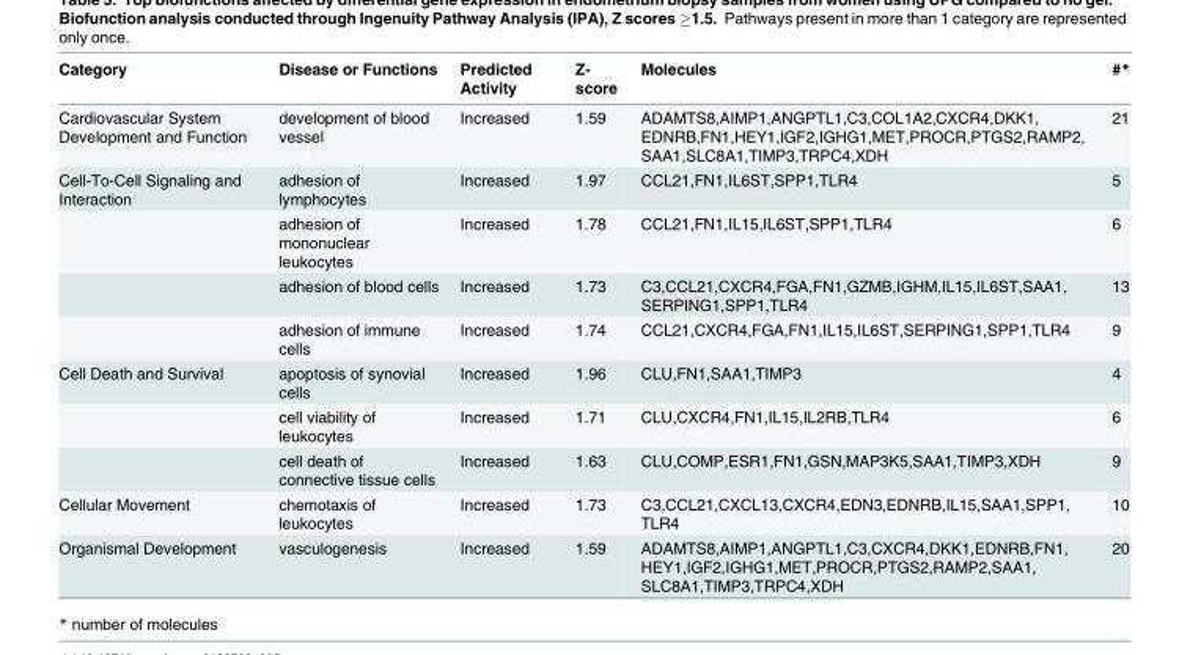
<table><thead><tr><td>Category</td><td>Disease or Functions</td><td>Predicted Activity</td><td>Z- score</td><td>Molecules</td><td>#*</td></tr></thead><tbody><tr><td>Cardiovascular System Development and Function</td><td>development of blood vessel</td><td>Increased</td><td>1.59</td><td>ADAMTS8,AIMP1,ANGPTL1,C3,COL1A2,CXCR4,DKK1, EDNRB,FN1,HEY1,IGF2,IGHG1,MET,PROCR,PTGS2,RAMP2, SAA1,SLC8A1,TIMP3,TRPC4,XDH</td><td>21</td></tr><tr><td rowspan="4">Cell-To-Cell Signaling and Interaction</td><td>adhesion of lymphocytes</td><td>Increased</td><td>1.97</td><td>CCL21,FN1,IL6ST,SPP1,TLR4</td><td>5</td></tr><tr><td>adhesion of mononuclear leukocytes</td><td>Increased</td><td>1.78</td><td>CCL21,FN1,IL15,IL6ST,SPP1,TLR4</td><td>6</td></tr><tr><td>adhesion of blood cells</td><td>Increased</td><td>1.73</td><td>C3,CCL21,CXCR4,FGA,FN1,GZMB,IGHM,IL15,IL6ST,SAA1, SERPING1,SPP1,TLR4</td><td>13</td></tr><tr><td>adhesion of immune cells</td><td>Increased</td><td>1.74</td><td>CCL21,CXCR4,FGA,FN1,IL15,IL6ST,SERPING1,SPP1,TLR4</td><td>9</td></tr><tr><td rowspan="3">Cell Death and Survival</td><td>apoptosis of synovial cells</td><td>Increased</td><td>1.96</td><td>CLU,FN1,SAA1,TIMP3</td><td>4</td></tr><tr><td>cell viability of leukocytes</td><td>Increased</td><td>1.71</td><td>CLU,CXCR4,FN1,IL15,IL2RB,TLR4</td><td>6</td></tr><tr><td>cell death of connective tissue cells</td><td>Increased</td><td>1.63</td><td>CLU,COMP,ESR1,FN1,GSN,MAP3K5,SAA1,TIMP3,XDH</td><td>9</td></tr><tr><td>Cellular Movement</td><td>chemotaxis of leukocytes</td><td>Increased</td><td>1.73</td><td>C3,CCL21,CXCL13,CXCR4,EDN3,EDNRB,IL15,SAA1,SPP1, TLR4</td><td>10</td></tr><tr><td>Organismal Development</td><td>vasculogenesis</td><td>Increased</td><td>1.59</td><td>ADAMTS8,AIMP1,ANGPTL1,C3,CXCR4,DKK1,EDNRB,FN1, HEY1,IGF2,IGHG1,MET,PROCR,PTGS2,RAMP2,SAA1, SLC8A1,TIMP3,TRPC4,XDH</td><td>20</td></tr></tbody></table>